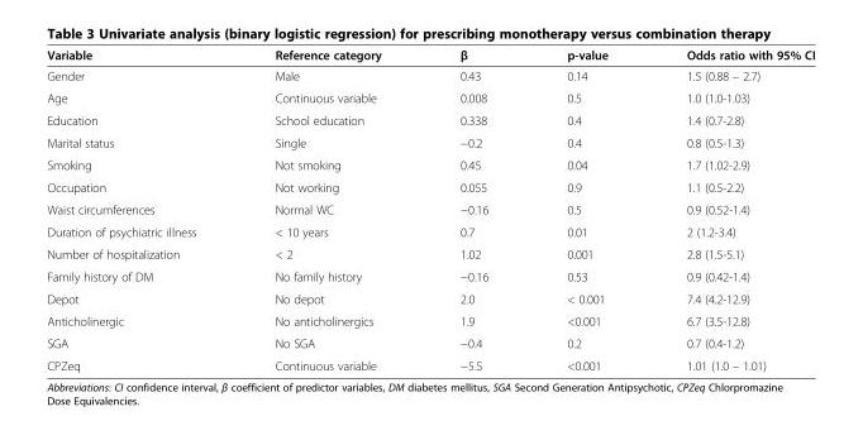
<table><thead><tr><td>Variable</td><td>Reference category</td><td>β</td><td>p-value</td><td>Odds ratio with 95% CI</td></tr></thead><tbody><tr><td>Gender</td><td>Male</td><td>0.43</td><td>0.14</td><td>1.5 (0.88 – 2.7)</td></tr><tr><td>Age</td><td>Continuous variable</td><td>0.008</td><td>0.5</td><td>1.0 (1.0-1.03)</td></tr><tr><td>Education</td><td>School education</td><td>0.338</td><td>0.4</td><td>1.4 (0.7-2.8)</td></tr><tr><td>Marital status</td><td>Single</td><td>−0.2</td><td>0.4</td><td>0.8 (0.5-1.3)</td></tr><tr><td>Smoking</td><td>Not smoking</td><td>0.45</td><td>0.04</td><td>1.7 (1.02-2.9)</td></tr><tr><td>Occupation</td><td>Not working</td><td>0.055</td><td>0.9</td><td>1.1 (0.5-2.2)</td></tr><tr><td>Waist circumferences</td><td>Normal WC</td><td>−0.16</td><td>0.5</td><td>0.9 (0.52-1.4)</td></tr><tr><td>Duration of psychiatric illness</td><td>&lt; 10 years</td><td>0.7</td><td>0.01</td><td>2 (1.2-3.4)</td></tr><tr><td>Number of hospitalization</td><td>&lt; 2</td><td>1.02</td><td>0.001</td><td>2.8 (1.5-5.1)</td></tr><tr><td>Family history of DM</td><td>No family history</td><td>−0.16</td><td>0.53</td><td>0.9 (0.42-1.4)</td></tr><tr><td>Depot</td><td>No depot</td><td>2.0</td><td>&lt; 0.001</td><td>7.4 (4.2-12.9)</td></tr><tr><td>Anticholinergic</td><td>No anticholinergics</td><td>1.9</td><td>&lt;0.001</td><td>6.7 (3.5-12.8)</td></tr><tr><td>SGA</td><td>No SGA</td><td>−0.4</td><td>0.2</td><td>0.7 (0.4-1.2)</td></tr><tr><td>CPZeq</td><td>Continuous variable</td><td>−5.5</td><td>&lt;0.001</td><td>1.01 (1.0 – 1.01)</td></tr></tbody></table>